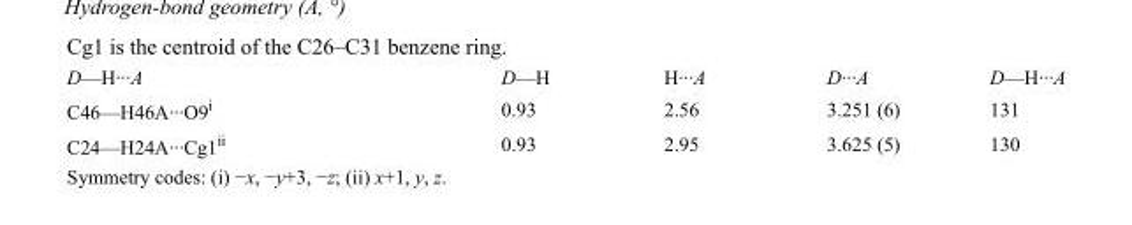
<table><tbody><tr><td>D—H···A</td><td>D—H</td><td>H···A</td><td>D···A</td><td>D—H···A</td></tr><tr><td>C46—H46A···O9<sup>i</sup></td><td>0.93</td><td>2.56</td><td>3.251 (6)</td><td>131</td></tr><tr><td>C24—H24A···Cg1<sup>ii</sup></td><td>0.93</td><td>2.95</td><td>3.625 (5)</td><td>130</td></tr></tbody></table>